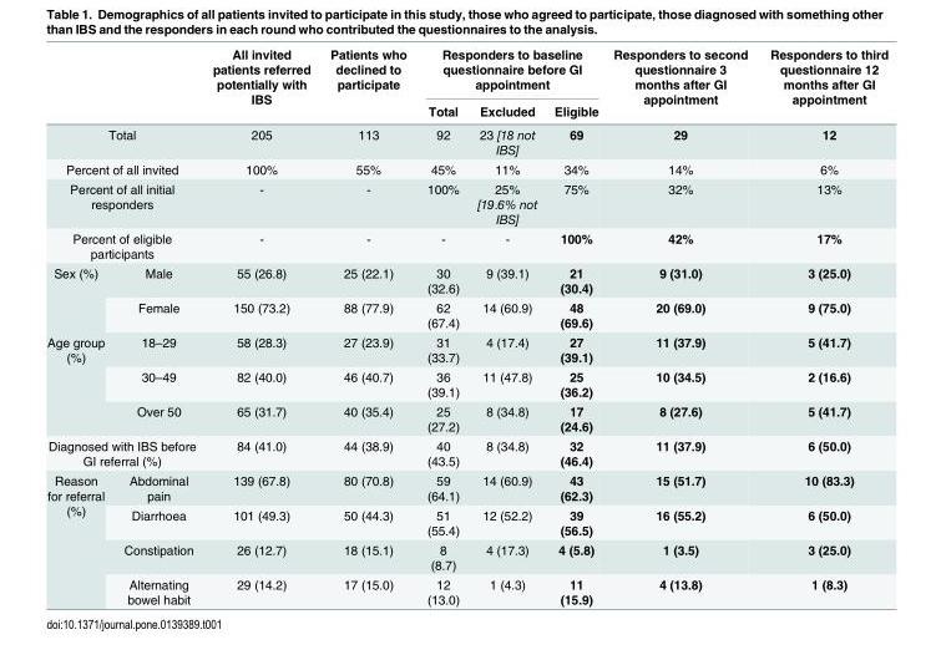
<table><thead><tr><td rowspan="2"></td><td rowspan="2"></td><td rowspan="2">All invited patients referred potentially with IBS</td><td rowspan="2">Patients who declined to participate</td><td colspan="3">Responders to baseline questionnaire before GI appointment</td><td rowspan="2">Responders to second questionnaire 3 months after GI appointment</td><td rowspan="2">Responders to third questionnaire 12 months after GI appointment</td></tr><tr><td>Total</td><td>Excluded</td><td>Eligible</td></tr></thead><tbody><tr><td colspan="2">Total</td><td>205</td><td>113</td><td>92</td><td>23 [18 not IBS]</td><td>69</td><td>29</td><td>12</td></tr><tr><td colspan="2">Percent of all invited</td><td>100%</td><td>55%</td><td>45%</td><td>11%</td><td>34%</td><td>14%</td><td>6%</td></tr><tr><td colspan="2">Percent of all initial responders</td><td>-</td><td>-</td><td>100%</td><td>25% [19.6% not IBS]</td><td>75%</td><td>32%</td><td>13%</td></tr><tr><td colspan="2">Percent of eligible participants</td><td>-</td><td>-</td><td>-</td><td>-</td><td>100%</td><td>42%</td><td>17%</td></tr><tr><td rowspan="2">Sex (%)</td><td>Male</td><td>55 (26.8)</td><td>25 (22.1)</td><td>30 (32.6)</td><td>9 (39.1)</td><td>21 (30.4)</td><td>9 (31.0)</td><td>3 (25.0)</td></tr><tr><td>Female</td><td>150 (73.2)</td><td>88 (77.9)</td><td>62 (67.4)</td><td>14 (60.9)</td><td>48 (69.6)</td><td>20 (69.0)</td><td>9 (75.0)</td></tr><tr><td rowspan="3">Age group (%)</td><td>18–29</td><td>58 (28.3)</td><td>27 (23.9)</td><td>31 (33.7)</td><td>4 (17.4)</td><td>27 (39.1)</td><td>11 (37.9)</td><td>5 (41.7)</td></tr><tr><td>30–49</td><td>82 (40.0)</td><td>46 (40.7)</td><td>36 (39.1)</td><td>11 (47.8)</td><td>25 (36.2)</td><td>10 (34.5)</td><td>2 (16.6)</td></tr><tr><td>Over 50</td><td>65 (31.7)</td><td>40 (35.4)</td><td>25 (27.2)</td><td>8 (34.8)</td><td>17 (24.6)</td><td>8 (27.6)</td><td>5 (41.7)</td></tr><tr><td colspan="2">Diagnosed with IBS before GI referral (%)</td><td>84 (41.0)</td><td>44 (38.9)</td><td>40 (43.5)</td><td>8 (34.8)</td><td>32 (46.4)</td><td>11 (37.9)</td><td>6 (50.0)</td></tr><tr><td rowspan="4">Reason for referral (%)</td><td>Abdominal pain</td><td>139 (67.8)</td><td>80 (70.8)</td><td>59 (64.1)</td><td>14 (60.9)</td><td>43 (62.3)</td><td>15 (51.7)</td><td>10 (83.3)</td></tr><tr><td>Diarrhoea</td><td>101 (49.3)</td><td>50 (44.3)</td><td>51 (55.4)</td><td>12 (52.2)</td><td>39 (56.5)</td><td>16 (55.2)</td><td>6 (50.0)</td></tr><tr><td>Constipation</td><td>26 (12.7)</td><td>18 (15.1)</td><td>8 (8.7)</td><td>4 (17.3)</td><td>4 (5.8)</td><td>1 (3.5)</td><td>3 (25.0)</td></tr><tr><td>Alternating bowel habit</td><td>29 (14.2)</td><td>17 (15.0)</td><td>12 (13.0)</td><td>1 (4.3)</td><td>11 (15.9)</td><td>4 (13.8)</td><td>1 (8.3)</td></tr></tbody></table>